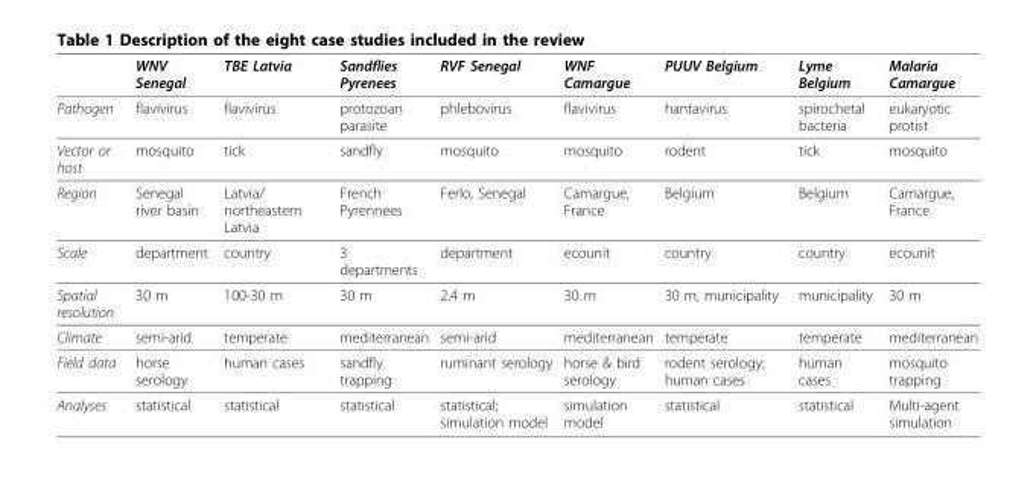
<table><thead><tr><td></td><td>WNV Senegal</td><td>TBE Latvia</td><td>Sandflies Pyrenees</td><td>RVF Senegal</td><td>WNF Camargue</td><td>PUUV Belgium</td><td>Lyme Belgium</td><td>Malaria Camargue</td></tr></thead><tbody><tr><td>Pathogen</td><td>flavivirus</td><td>flavivirus</td><td>protozoan parasite</td><td>phlebovirus</td><td>flavivirus</td><td>hantavirus</td><td>spirochetal bacteria</td><td>eukaryotic protist</td></tr><tr><td>Vector or host</td><td>mosquito</td><td>tick</td><td>sandfly</td><td>mosquito</td><td>mosquito</td><td>rodent</td><td>tick</td><td>mosquito</td></tr><tr><td>Region</td><td>Senegal river basin</td><td>Latvia/ northeastern Latvia</td><td>French Pyrennees</td><td>Ferlo, Senegal</td><td>Camargue, France</td><td>Belgium</td><td>Belgium</td><td>Camargue, France</td></tr><tr><td>Scale</td><td>department</td><td>country</td><td>3 departments</td><td>department</td><td>ecounit</td><td>country</td><td>country</td><td>ecounit</td></tr><tr><td>Spatial resolution</td><td>30 m</td><td>100-30 m</td><td>30 m</td><td>2.4 m</td><td>30 m</td><td>30 m, municipality</td><td>municipality</td><td>30 m</td></tr><tr><td>Climate</td><td>semi-arid</td><td>temperate</td><td>mediterranean</td><td>semi-arid</td><td>mediterranean</td><td>temperate</td><td>temperate</td><td>mediterranean</td></tr><tr><td>Field data</td><td>horse serology</td><td>human cases</td><td>sandfly trapping</td><td>ruminant serology</td><td>horse &amp; bird serology</td><td>rodent serology; human cases</td><td>human cases</td><td>mosquito trapping</td></tr><tr><td>Analyses</td><td>statistical</td><td>statistical</td><td>statistical</td><td>statistical; simulation model</td><td>simulation model</td><td>statistical</td><td>statistical</td><td>Multi-agent simulation</td></tr></tbody></table>